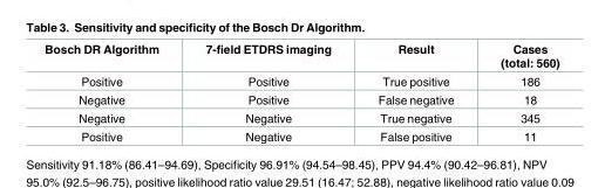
<table><thead><tr><td>Bosch DR Algorithm</td><td>7-field ETDRS imaging</td><td>Result</td><td>Cases (total: 560)</td></tr></thead><tbody><tr><td>Positive</td><td>Positive</td><td>True positive</td><td>186</td></tr><tr><td>Negative</td><td>Positive</td><td>False negative</td><td>18</td></tr><tr><td>Negative</td><td>Negative</td><td>True negative</td><td>345</td></tr><tr><td>Positive</td><td>Negative</td><td>False positive</td><td>11</td></tr></tbody></table>